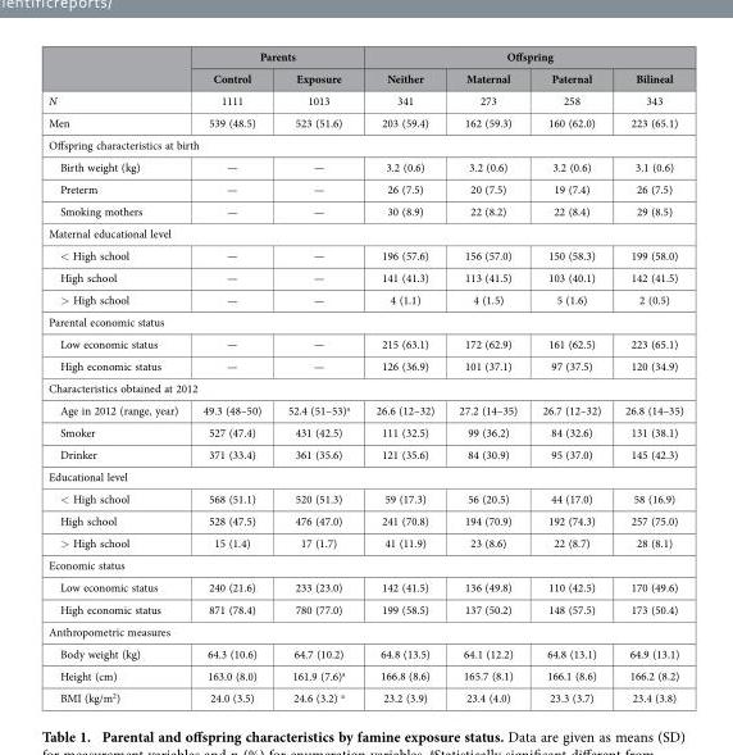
<table><thead><tr><td rowspan="2"></td><td colspan="2">Parents</td><td colspan="4">Offspring</td></tr><tr><td>Control</td><td>Exposure</td><td>Neither</td><td>Maternal</td><td>Paternal</td><td>Bilineal</td></tr></thead><tbody><tr><td>N</td><td>1111</td><td>1013</td><td>341</td><td>273</td><td>258</td><td>343</td></tr><tr><td>Men</td><td>539 (48.5)</td><td>523 (51.6)</td><td>203 (59.4)</td><td>162 (59.3)</td><td>160 (62.0)</td><td>223 (65.1)</td></tr><tr><td colspan="7">Offspring characteristics at birth</td></tr><tr><td>Birth weight (kg)</td><td>—</td><td>—</td><td>3.2 (0.6)</td><td>3.2 (0.6)</td><td>3.2 (0.6)</td><td>3.1 (0.6)</td></tr><tr><td>Preterm</td><td>—</td><td>—</td><td>26 (7.5)</td><td>20 (7.5)</td><td>19 (7.4)</td><td>26 (7.5)</td></tr><tr><td>Smoking mothers</td><td>—</td><td>—</td><td>30 (8.9)</td><td>22 (8.2)</td><td>22 (8.4)</td><td>29 (8.5)</td></tr><tr><td colspan="7">Maternal educational level</td></tr><tr><td>&lt; High school</td><td>—</td><td>—</td><td>196 (57.6)</td><td>156 (57.0)</td><td>150 (58.3)</td><td>199 (58.0)</td></tr><tr><td>High school</td><td>—</td><td>—</td><td>141 (41.3)</td><td>113 (41.5)</td><td>103 (40.1)</td><td>142 (41.5)</td></tr><tr><td>&gt; High school</td><td>—</td><td>—</td><td>4 (1.1)</td><td>4 (1.5)</td><td>5 (1.6)</td><td>2 (0.5)</td></tr><tr><td colspan="7">Parental economic status</td></tr><tr><td>Low economic status</td><td>—</td><td>—</td><td>215 (63.1)</td><td>172 (62.9)</td><td>161 (62.5)</td><td>223 (65.1)</td></tr><tr><td>High economic status</td><td>—</td><td>—</td><td>126 (36.9)</td><td>101 (37.1)</td><td>97 (37.5)</td><td>120 (34.9)</td></tr><tr><td colspan="7">Characteristics obtained at 2012</td></tr><tr><td>Age in 2012 (range, year)</td><td>49.3 (48–50)</td><td>52.4 (51–53)<sup>a</sup></td><td>26.6 (12–32)</td><td>27.2 (14–35)</td><td>26.7 (12–32)</td><td>26.8 (14–35)</td></tr><tr><td>Smoker</td><td>527 (47.4)</td><td>431 (42.5)</td><td>111 (32.5)</td><td>99 (36.2)</td><td>84 (32.6)</td><td>131 (38.1)</td></tr><tr><td>Drinker</td><td>371 (33.4)</td><td>361 (35.6)</td><td>121 (35.6)</td><td>84 (30.9)</td><td>95 (37.0)</td><td>145 (42.3)</td></tr><tr><td colspan="7">Educational level</td></tr><tr><td>&lt; High school</td><td>568 (51.1)</td><td>520 (51.3)</td><td>59 (17.3)</td><td>56 (20.5)</td><td>44 (17.0)</td><td>58 (16.9)</td></tr><tr><td>High school</td><td>528 (47.5)</td><td>476 (47.0)</td><td>241 (70.8)</td><td>194 (70.9)</td><td>192 (74.3)</td><td>257 (75.0)</td></tr><tr><td>&gt; High school</td><td>15 (1.4)</td><td>17 (1.7)</td><td>41 (11.9)</td><td>23 (8.6)</td><td>22 (8.7)</td><td>28 (8.1)</td></tr><tr><td colspan="7">Economic status</td></tr><tr><td>Low economic status</td><td>240 (21.6)</td><td>233 (23.0)</td><td>142 (41.5)</td><td>136 (49.8)</td><td>110 (42.5)</td><td>170 (49.6)</td></tr><tr><td>High economic status</td><td>871 (78.4)</td><td>780 (77.0)</td><td>199 (58.5)</td><td>137 (50.2)</td><td>148 (57.5)</td><td>173 (50.4)</td></tr><tr><td colspan="7">Anthropometric measures</td></tr><tr><td>Body weight (kg)</td><td>64.3 (10.6)</td><td>64.7 (10.2)</td><td>64.8 (13.5)</td><td>64.1 (12.2)</td><td>64.8 (13.1)</td><td>64.9 (13.1)</td></tr><tr><td>Height (cm)</td><td>163.0 (8.0)</td><td>161.9 (7.6)<sup>a</sup></td><td>166.8 (8.6)</td><td>165.7 (8.1)</td><td>166.1 (8.6)</td><td>166.2 (8.2)</td></tr><tr><td>BMI (kg/m<sup>2</sup>)</td><td>24.0 (3.5)</td><td>24.6 (3.2) a</td><td>23.2 (3.9)</td><td>23.4 (4.0)</td><td>23.3 (3.7)</td><td>23.4 (3.8)</td></tr></tbody></table>